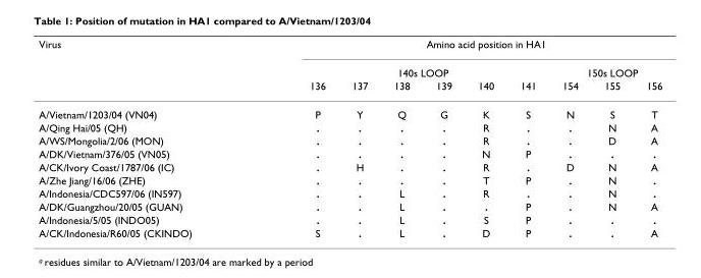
<table><thead><tr><td rowspan="3">Virus</td><td colspan="9">Amino acid position in HA1</td></tr><tr><td colspan="6">140s LOOP</td><td colspan="3">150s LOOP</td></tr><tr><td>136</td><td>137</td><td>138</td><td>139</td><td>140</td><td>141</td><td>154</td><td>155</td><td>156</td></tr></thead><tbody><tr><td>A/Vietnam/1203/04 (VN04)</td><td>P</td><td>Y</td><td>Q</td><td>G</td><td>K</td><td>S</td><td>N</td><td>S</td><td>T</td></tr><tr><td>A/Qing Hai/05 (QH)</td><td>.</td><td>.</td><td>.</td><td>.</td><td>R</td><td>.</td><td>.</td><td>N</td><td>A</td></tr><tr><td>A/WS/Mongolia/2/06 (MON)</td><td>.</td><td>.</td><td>.</td><td>.</td><td>R</td><td>.</td><td>.</td><td>D</td><td>A</td></tr><tr><td>A/DK/Vietnam/376/05 (VN05)</td><td>.</td><td>.</td><td>.</td><td>.</td><td>N</td><td>P</td><td>.</td><td>.</td><td>.</td></tr><tr><td>A/CK/Ivory Coast/1787/06 (IC)</td><td>.</td><td>H</td><td>.</td><td>.</td><td>R</td><td>.</td><td>D</td><td>N</td><td>A</td></tr><tr><td>A/Zhe Jiang/16/06 (ZHE)</td><td>.</td><td>.</td><td>.</td><td>.</td><td>T</td><td>P</td><td>.</td><td>N</td><td>.</td></tr><tr><td>A/Indonesia/CDC597/06 (IN597)</td><td>.</td><td>.</td><td>L</td><td>.</td><td>R</td><td>.</td><td>.</td><td>N</td><td>.</td></tr><tr><td>A/DK/Guangzhou/20/05 (GUAN)</td><td>.</td><td>.</td><td>L</td><td>.</td><td>.</td><td>P</td><td>.</td><td>N</td><td>A</td></tr><tr><td>A/Indonesia/5/05 (INDO05)</td><td>.</td><td>.</td><td>L</td><td>.</td><td>S</td><td>P</td><td>.</td><td>.</td><td>.</td></tr><tr><td>A/CK/Indonesia/R60/05 (CKINDO)</td><td>S</td><td>.</td><td>L</td><td>.</td><td>D</td><td>P</td><td>.</td><td>.</td><td>A</td></tr></tbody></table>